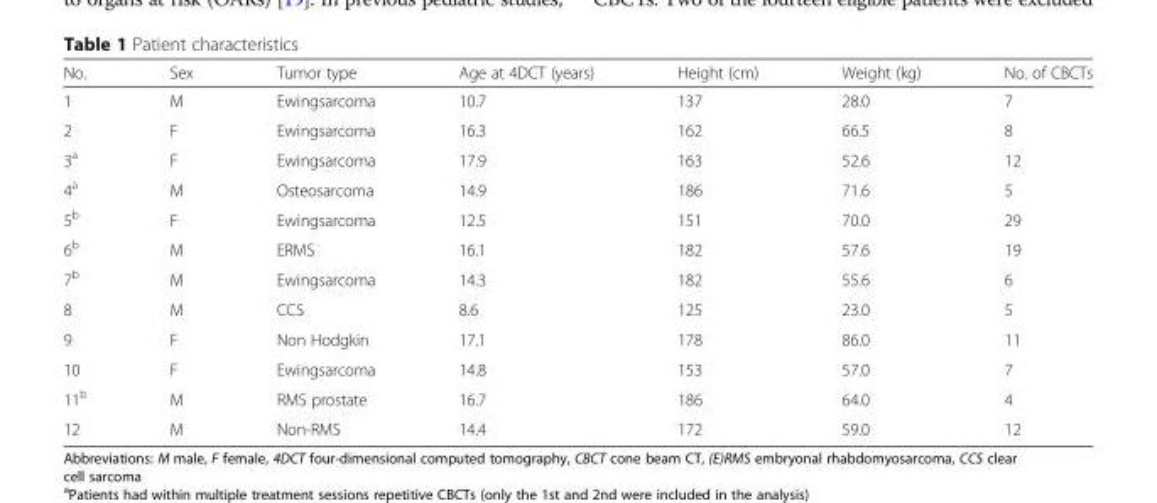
<table><thead><tr><td>No.</td><td>Sex</td><td>Tumor type</td><td>Age at 4DCT (years)</td><td>Height (cm)</td><td>Weight (kg)</td><td>No. of CBCTs</td></tr></thead><tbody><tr><td>1</td><td>M</td><td>Ewingsarcoma</td><td>10.7</td><td>137</td><td>28.0</td><td>7</td></tr><tr><td>2</td><td>F</td><td>Ewingsarcoma</td><td>16.3</td><td>162</td><td>66.5</td><td>8</td></tr><tr><td>3<sup>a</sup></td><td>F</td><td>Ewingsarcoma</td><td>17.9</td><td>163</td><td>52.6</td><td>12</td></tr><tr><td>4<sup>a</sup></td><td>M</td><td>Osteosarcoma</td><td>14.9</td><td>186</td><td>71.6</td><td>5</td></tr><tr><td>5<sup>b</sup></td><td>F</td><td>Ewingsarcoma</td><td>12.5</td><td>151</td><td>70.0</td><td>29</td></tr><tr><td>6<sup>b</sup></td><td>M</td><td>ERMS</td><td>16.1</td><td>182</td><td>57.6</td><td>19</td></tr><tr><td>7<sup>b</sup></td><td>M</td><td>Ewingsarcoma</td><td>14.3</td><td>182</td><td>55.6</td><td>6</td></tr><tr><td>8</td><td>M</td><td>CCS</td><td>8.6</td><td>125</td><td>23.0</td><td>5</td></tr><tr><td>9</td><td>F</td><td>Non Hodgkin</td><td>17.1</td><td>178</td><td>86.0</td><td>11</td></tr><tr><td>10</td><td>F</td><td>Ewingsarcoma</td><td>14.8</td><td>153</td><td>57.0</td><td>7</td></tr><tr><td>11<sup>b</sup></td><td>M</td><td>RMS prostate</td><td>16.7</td><td>186</td><td>64.0</td><td>4</td></tr><tr><td>12</td><td>M</td><td>Non-RMS</td><td>14.4</td><td>172</td><td>59.0</td><td>12</td></tr></tbody></table>